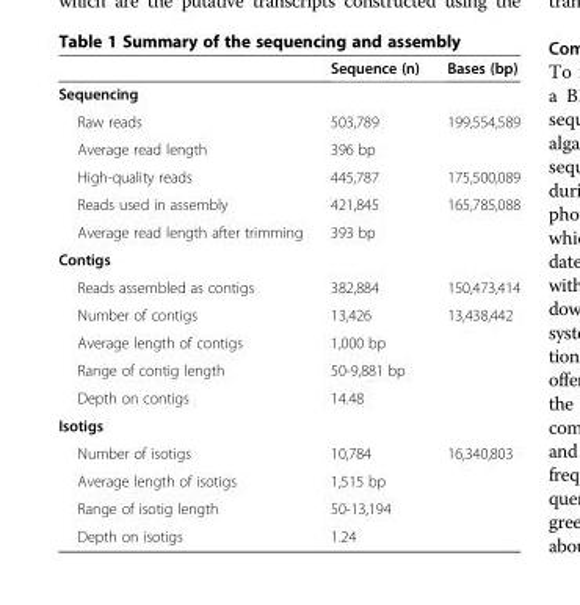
<table><thead><tr><td></td><td>Sequence (n)</td><td>Bases (bp)</td></tr></thead><tbody><tr><td colspan="3">Sequencing</td></tr><tr><td>Raw reads</td><td>503,789</td><td>199,554,589</td></tr><tr><td>Average read length</td><td>396 bp</td><td></td></tr><tr><td>High-quality reads</td><td>445,787</td><td>175,500,089</td></tr><tr><td>Reads used in assembly</td><td>421,845</td><td>165,785,088</td></tr><tr><td>Average read length after trimming</td><td>393 bp</td><td></td></tr><tr><td colspan="3">Contigs</td></tr><tr><td>Reads assembled as contigs</td><td>382,884</td><td>150,473,414</td></tr><tr><td>Number of contigs</td><td>13,426</td><td>13,438,442</td></tr><tr><td>Average length of contigs</td><td>1,000 bp</td><td></td></tr><tr><td>Range of contig length</td><td>50-9,881 bp</td><td></td></tr><tr><td>Depth on contigs</td><td>14.48</td><td></td></tr><tr><td colspan="3">Isotigs</td></tr><tr><td>Number of isotigs</td><td>10,784</td><td>16,340,803</td></tr><tr><td>Average length of isotigs</td><td>1,515 bp</td><td></td></tr><tr><td>Range of isotig length</td><td>50-13,194</td><td></td></tr><tr><td>Depth on isotigs</td><td>1.24</td><td></td></tr></tbody></table>